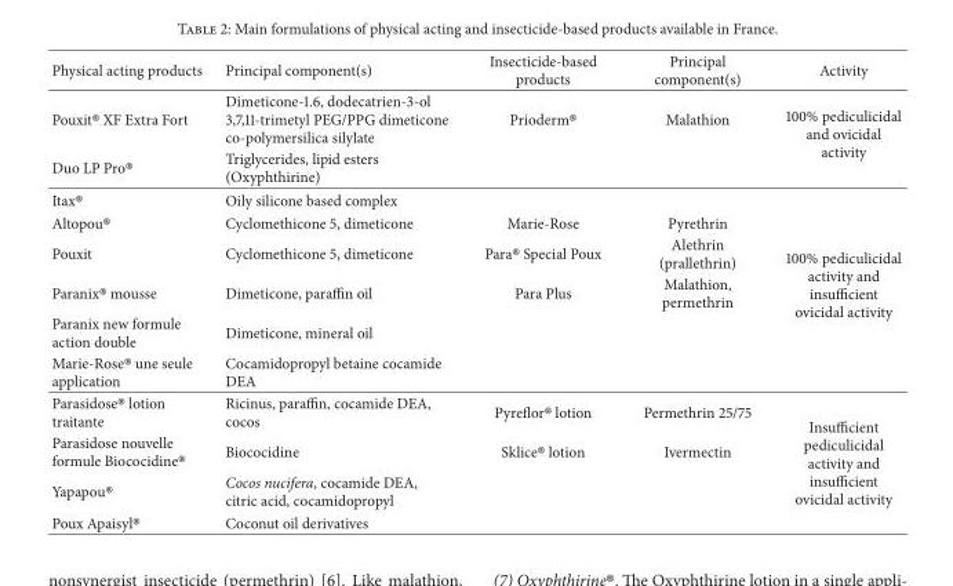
<table><thead><tr><td>Physical acting products</td><td>Principal component(s)</td><td>Insecticide-based products</td><td>Principal component(s)</td><td>Activity</td></tr></thead><tbody><tr><td>Pouxit® XF Extra Fort</td><td>Dimeticone-1.6, dodecatrien-3-ol 3,7,11-trimetyl PEG/PPG dimeticone co-polymersilica silylate</td><td>Prioderm®</td><td>Malathion</td><td rowspan="2">100% pediculicidal and ovicidal activity</td></tr><tr><td>Duo LP Pro®</td><td>Triglycerides, lipid esters (Oxyphthirine)</td><td></td><td></td></tr><tr><td>Itax®</td><td>Oily silicone based complex</td><td></td><td></td><td rowspan="6">100% pediculicidal activity and insufficient ovicidal activity</td></tr><tr><td>Altopou®</td><td>Cyclomethicone 5, dimeticone</td><td>Marie-Rose</td><td>Pyrethrin</td></tr><tr><td>Pouxit</td><td>Cyclomethicone 5, dimeticone</td><td>Para® Special Poux</td><td>Alethrin (prallethrin)</td></tr><tr><td>Paranix® mousse</td><td>Dimeticone, paraffin oil</td><td>Para Plus</td><td>Malathion, permethrin</td></tr><tr><td>Paranix new formule action double</td><td>Dimeticone, mineral oil</td><td></td><td></td></tr><tr><td>Marie-Rose® une seule application</td><td>Cocamidopropyl betaine cocamide DEA</td><td></td><td></td></tr><tr><td>Parasidose® lotion traitante</td><td>Ricinus, paraffin, cocamide DEA, cocos</td><td>Pyreflor® lotion</td><td>Permethrin 25/75</td><td rowspan="4">Insufficient pediculicidal activity and insufficient ovicidal activity</td></tr><tr><td>Parasidose nouvelle formule Biococidine®</td><td>Biococidine</td><td>Sklice® lotion</td><td>Ivermectin</td></tr><tr><td>Yapapou®</td><td>Cocos nucifera, cocamide DEA, citric acid, cocamidopropyl</td><td></td><td></td></tr><tr><td>Poux Apaisyl®</td><td>Coconut oil derivatives</td><td></td><td></td></tr></tbody></table>